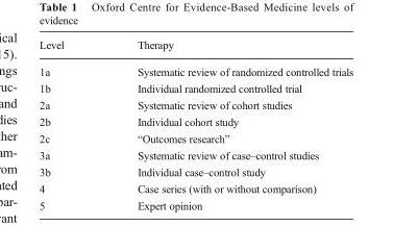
<table><thead><tr><td>Level</td><td>Therapy</td></tr></thead><tbody><tr><td>1a</td><td>Systematic review of randomized controlled trials</td></tr><tr><td>1b</td><td>Individual randomized controlled trial</td></tr><tr><td>2a</td><td>Systematic review of cohort studies</td></tr><tr><td>2b</td><td>Individual cohort study</td></tr><tr><td>2c</td><td>“Outcomes research”</td></tr><tr><td>3a</td><td>Systematic review of case–control studies</td></tr><tr><td>3b</td><td>Individual case–control study</td></tr><tr><td>4</td><td>Case series (with or without comparison)</td></tr><tr><td>5</td><td>Expert opinion</td></tr></tbody></table>